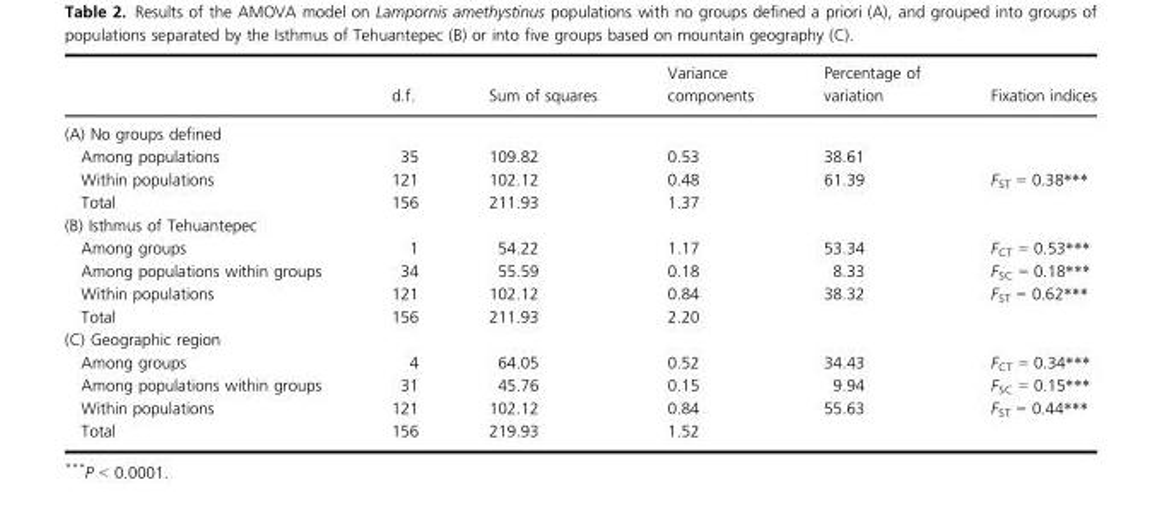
<table><thead><tr><td></td><td>d.f.</td><td>Sum of squares</td><td>Variance components</td><td>Percentage of variation</td><td>Fixation indices</td></tr></thead><tbody><tr><td colspan="6">(A) No groups defined</td></tr><tr><td>Among populations</td><td>35</td><td>109.82</td><td>0.53</td><td>38.61</td><td></td></tr><tr><td>Within populations</td><td>121</td><td>102.12</td><td>0.48</td><td>61.39</td><td>F<sub>ST</sub> = 0.38***</td></tr><tr><td>Total</td><td>156</td><td>211.93</td><td>1.37</td><td></td><td></td></tr><tr><td colspan="6">(B) Isthmus of Tehuantepec</td></tr><tr><td>Among groups</td><td>1</td><td>54.22</td><td>1.17</td><td>53.34</td><td>F<sub>CT</sub> = 0.53***</td></tr><tr><td>Among populations within groups</td><td>34</td><td>55.59</td><td>0.18</td><td>8.33</td><td>F<sub>SC</sub> = 0.18***</td></tr><tr><td>Within populations</td><td>121</td><td>102.12</td><td>0.84</td><td>38.32</td><td>F<sub>ST</sub> = 0.62***</td></tr><tr><td>Total</td><td>156</td><td>211.93</td><td>2.20</td><td></td><td></td></tr><tr><td colspan="6">(C) Geographic region</td></tr><tr><td>Among groups</td><td>4</td><td>64.05</td><td>0.52</td><td>34.43</td><td>F<sub>CT</sub> = 0.34***</td></tr><tr><td>Among populations within groups</td><td>31</td><td>45.76</td><td>0.15</td><td>9.94</td><td>F<sub>SC</sub> = 0.15***</td></tr><tr><td>Within populations</td><td>121</td><td>102.12</td><td>0.84</td><td>55.63</td><td>F<sub>ST</sub> = 0.44***</td></tr><tr><td>Total</td><td>156</td><td>219.93</td><td>1.52</td><td></td><td></td></tr></tbody></table>